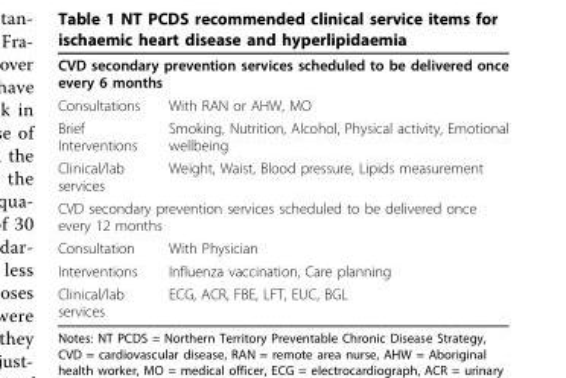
<table><tbody><tr><td colspan="2">CVD secondary prevention services scheduled to be delivered once every 6 months</td></tr><tr><td>Consultations</td><td>With RAN or AHW, MO</td></tr><tr><td>Brief Interventions</td><td>Smoking, Nutrition, Alcohol, Physical activity, Emotional wellbeing</td></tr><tr><td>Clinical/lab services</td><td>Weight, Waist, Blood pressure, Lipids measurement</td></tr><tr><td colspan="2">CVD secondary prevention services scheduled to be delivered once every 12 months</td></tr><tr><td>Consultation</td><td>With Physician</td></tr><tr><td>Interventions</td><td>Influenza vaccination, Care planning</td></tr><tr><td>Clinical/lab services</td><td>ECG, ACR, FBE, LFT, EUC, BGL</td></tr></tbody></table>